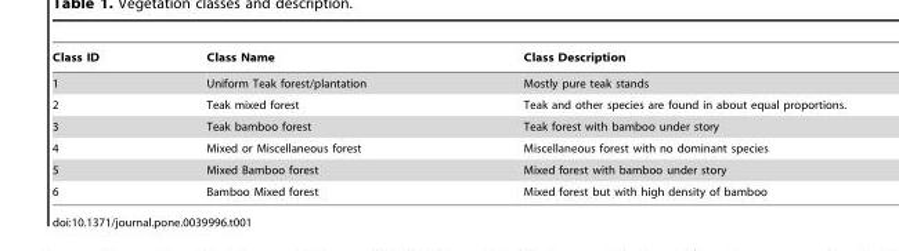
<table><thead><tr><td>Class ID</td><td>Class Name</td><td>Class Description</td></tr></thead><tbody><tr><td>1</td><td>Uniform Teak forest/plantation</td><td>Mostly pure teak stands</td></tr><tr><td>2</td><td>Teak mixed forest</td><td>Teak and other species are found in about equal proportions.</td></tr><tr><td>3</td><td>Teak bamboo forest</td><td>Teak forest with bamboo under story</td></tr><tr><td>4</td><td>Mixed or Miscellaneous forest</td><td>Miscellaneous forest with no dominant species</td></tr><tr><td>5</td><td>Mixed Bamboo forest</td><td>Mixed forest with bamboo under story</td></tr><tr><td>6</td><td>Bamboo Mixed forest</td><td>Mixed forest but with high density of bamboo</td></tr></tbody></table>